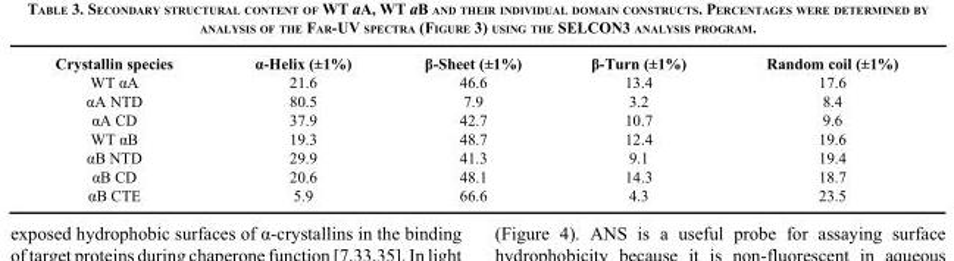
<table><thead><tr><td>Crystallin species</td><td>α-Helix (±1%)</td><td>β-Sheet (±1%)</td><td>β-Turn (±1%)</td><td>Random coil (±1%)</td></tr></thead><tbody><tr><td>WT αA</td><td>21.6</td><td>46.6</td><td>13.4</td><td>17.6</td></tr><tr><td>αA NTD</td><td>80.5</td><td>7.9</td><td>3.2</td><td>8.4</td></tr><tr><td>αA CD</td><td>37.9</td><td>42.7</td><td>10.7</td><td>9.6</td></tr><tr><td>WT αB</td><td>19.3</td><td>48.7</td><td>12.4</td><td>19.6</td></tr><tr><td>αB NTD</td><td>29.9</td><td>41.3</td><td>9.1</td><td>19.4</td></tr><tr><td>αB CD</td><td>20.6</td><td>48.1</td><td>14.3</td><td>18.7</td></tr><tr><td>αB CTE</td><td>5.9</td><td>66.6</td><td>4.3</td><td>23.5</td></tr></tbody></table>